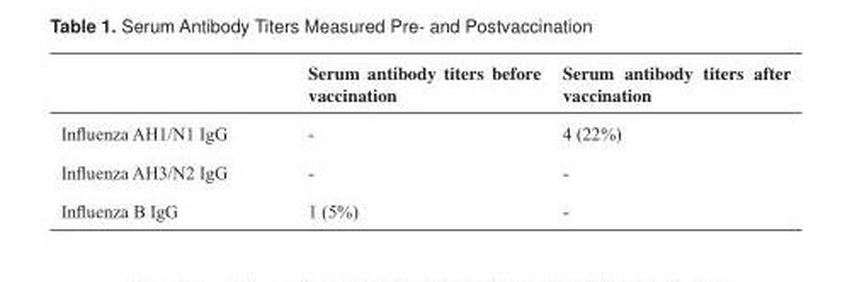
<table><thead><tr><td></td><td>Serum antibody titers before vaccination</td><td>Serum antibody titers after vaccination</td></tr></thead><tbody><tr><td>Infl uenza AH1/N1 IgG</td><td>-</td><td>4 (22%)</td></tr><tr><td>Infl uenza AH3/N2 IgG</td><td>-</td><td>-</td></tr><tr><td>Infl uenza B IgG</td><td>1 (5%)</td><td>-</td></tr></tbody></table>